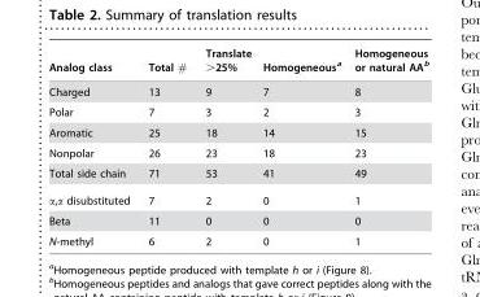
<table><thead><tr><td>Analog class</td><td>Total #</td><td>Translate &gt;25%</td><td>Homogeneous<sup>a</sup></td><td>Homogeneous or natural AA<sup>b</sup></td></tr></thead><tbody><tr><td>Charged</td><td>13</td><td>9</td><td>7</td><td>8</td></tr><tr><td>Polar</td><td>7</td><td>3</td><td>2</td><td>3</td></tr><tr><td>Aromatic</td><td>25</td><td>18</td><td>14</td><td>15</td></tr><tr><td>Nonpolar</td><td>26</td><td>23</td><td>18</td><td>23</td></tr><tr><td>Total side chain</td><td>71</td><td>53</td><td>41</td><td>49</td></tr><tr><td>α,α disubstituted</td><td>7</td><td>2</td><td>0</td><td>1</td></tr><tr><td>Beta</td><td>11</td><td>0</td><td>0</td><td>0</td></tr><tr><td>N-methyl</td><td>6</td><td>2</td><td>0</td><td>1</td></tr></tbody></table>